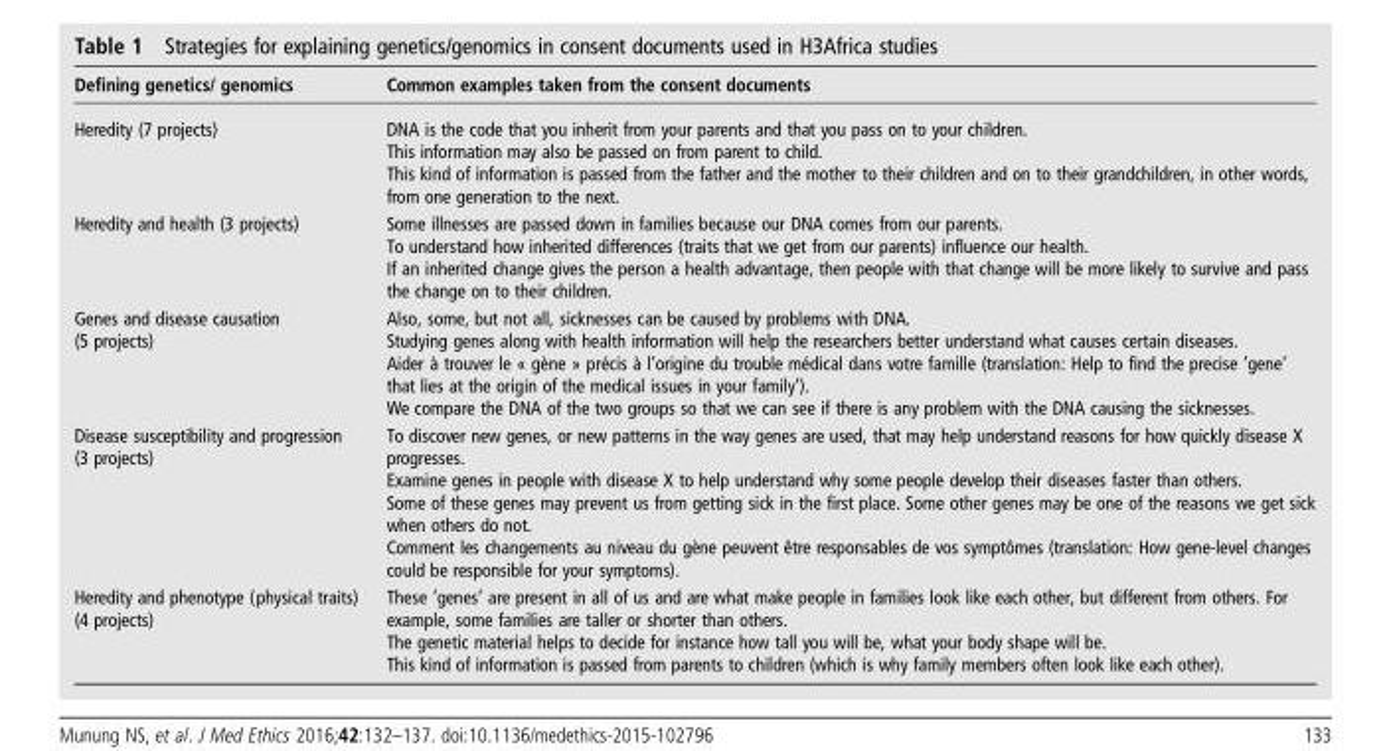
<table><thead><tr><td>Defining genetics/ genomics</td><td>Common examples taken from the consent documents</td></tr></thead><tbody><tr><td>Heredity (7 projects)</td><td>DNA is the code that you inherit from your parents and that you pass on to your children. This information may also be passed on from parent to child. This kind of information is passed from the father and the mother to their children and on to their grandchildren, in other words, from one generation to the next.</td></tr><tr><td>Heredity and health (3 projects)</td><td>Some illnesses are passed down in families because our DNA comes from our parents. To understand how inherited differences (traits that we get from our parents) influence our health. If an inherited change gives the person a health advantage, then people with that change will be more likely to survive and pass the change on to their children.</td></tr><tr><td>Genes and disease causation (5 projects)</td><td>Also, some, but not all, sicknesses can be caused by problems with DNA. Studying genes along with health information will help the researchers better understand what causes certain diseases. Aider à trouver le « gène » précis à l’origine du trouble médical dans votre famille (translation: Help to find the precise ‘gene’ that lies at the origin of the medical issues in your family’). We compare the DNA of the two groups so that we can see if there is any problem with the DNA causing the sicknesses.</td></tr><tr><td>Disease susceptibility and progression (3 projects)</td><td>To discover new genes, or new patterns in the way genes are used, that may help understand reasons for how quickly disease X progresses. Examine genes in people with disease X to help understand why some people develop their diseases faster than others. Some of these genes may prevent us from getting sick in the first place. Some other genes may be one of the reasons we get sick when others do not. Comment les changements au niveau du gène peuvent être responsables de vos symptômes (translation: How gene-level changes could be responsible for your symptoms).</td></tr><tr><td>Heredity and phenotype (physical traits) (4 projects)</td><td>These ‘genes’ are present in all of us and are what make people in families look like each other, but different from others. For example, some families are taller or shorter than others. The genetic material helps to decide for instance how tall you will be, what your body shape will be. This kind of information is passed from parents to children (which is why family members often look like each other).</td></tr></tbody></table>